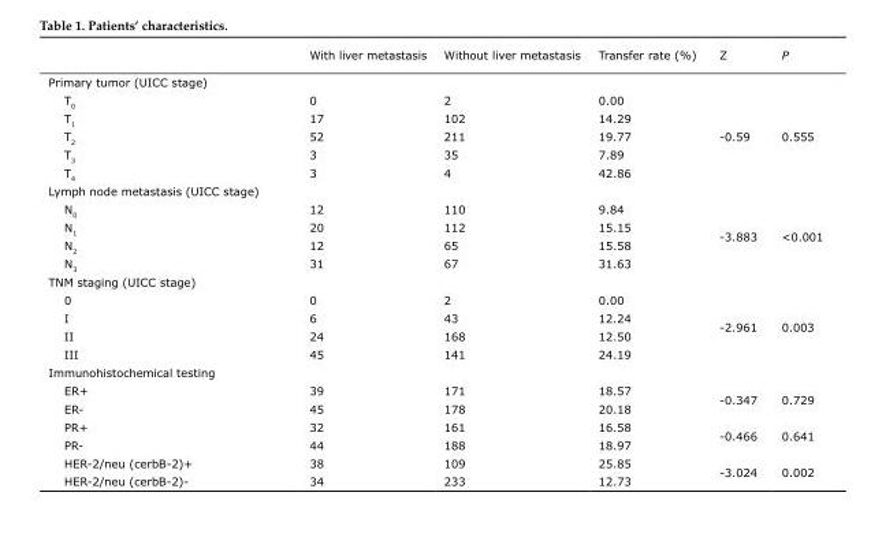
<table><thead><tr><td></td><td>With liver metastasis</td><td>Without liver metastasis</td><td>Transfer rate (%)</td><td>Z</td><td>P</td></tr></thead><tbody><tr><td colspan="6">Primary tumor (UICC stage)</td></tr><tr><td>T<sub>0</sub></td><td>0</td><td>2</td><td>0.00</td><td rowspan="5">-0.59</td><td rowspan="5">0.555</td></tr><tr><td>T<sub>1</sub></td><td>17</td><td>102</td><td>14.29</td></tr><tr><td>T<sub>2</sub></td><td>52</td><td>211</td><td>19.77</td></tr><tr><td>T<sub>3</sub></td><td>3</td><td>35</td><td>7.89</td></tr><tr><td>T<sub>4</sub></td><td>3</td><td>4</td><td>42.86</td></tr><tr><td colspan="6">Lymph node metastasis (UICC stage)</td></tr><tr><td>N<sub>0</sub></td><td>12</td><td>110</td><td>9.84</td><td rowspan="4">-3.883</td><td rowspan="4">&lt;0.001</td></tr><tr><td>N<sub>1</sub></td><td>20</td><td>112</td><td>15.15</td></tr><tr><td>N<sub>2</sub></td><td>12</td><td>65</td><td>15.58</td></tr><tr><td>N<sub>3</sub></td><td>31</td><td>67</td><td>31.63</td></tr><tr><td colspan="6">TNM staging (UICC stage)</td></tr><tr><td>0</td><td>0</td><td>2</td><td>0.00</td><td rowspan="4">-2.961</td><td rowspan="4">0.003</td></tr><tr><td>I</td><td>6</td><td>43</td><td>12.24</td></tr><tr><td>II</td><td>24</td><td>168</td><td>12.50</td></tr><tr><td>III</td><td>45</td><td>141</td><td>24.19</td></tr><tr><td colspan="6">Immunohistochemical testing</td></tr><tr><td>ER+</td><td>39</td><td>171</td><td>18.57</td><td rowspan="2">-0.347</td><td rowspan="2">0.729</td></tr><tr><td>ER-</td><td>45</td><td>178</td><td>20.18</td></tr><tr><td>PR+</td><td>32</td><td>161</td><td>16.58</td><td rowspan="2">-0.466</td><td rowspan="2">0.641</td></tr><tr><td>PR-</td><td>44</td><td>188</td><td>18.97</td></tr><tr><td>HER-2/neu (cerbB-2)+</td><td>38</td><td>109</td><td>25.85</td><td rowspan="2">-3.024</td><td rowspan="2">0.002</td></tr><tr><td>HER-2/neu (cerbB-2)-</td><td>34</td><td>233</td><td>12.73</td></tr></tbody></table>